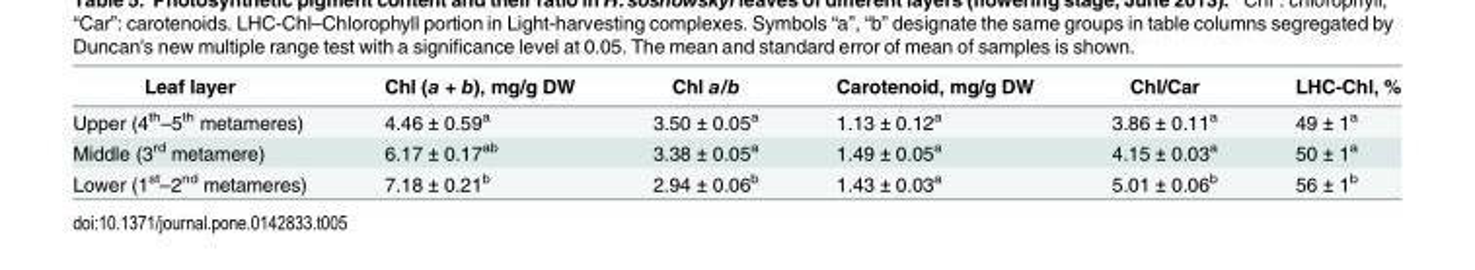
<table><thead><tr><td>Leaf layer</td><td>Chl (a + b), mg/g DW</td><td>Chl a/b</td><td>Carotenoid, mg/g DW</td><td>Chl/Car</td><td>LHC-Chl, %</td></tr></thead><tbody><tr><td>Upper (4<sup>th</sup>–5<sup>th</sup> metameres)</td><td>4.46 ± 0.59<sup>a</sup></td><td>3.50 ± 0.05<sup>a</sup></td><td>1.13 ± 0.12<sup>a</sup></td><td>3.86 ± 0.11<sup>a</sup></td><td>49 ± 1<sup>a</sup></td></tr><tr><td>Middle (3<sup>rd</sup> metamere)</td><td>6.17 ± 0.17<sup>ab</sup></td><td>3.38 ± 0.05<sup>a</sup></td><td>1.49 ± 0.05<sup>a</sup></td><td>4.15 ± 0.03<sup>a</sup></td><td>50 ± 1<sup>a</sup></td></tr><tr><td>Lower (1<sup>st</sup>–2<sup>nd</sup> metameres)</td><td>7.18 ± 0.21<sup>b</sup></td><td>2.94 ± 0.06<sup>b</sup></td><td>1.43 ± 0.03<sup>a</sup></td><td>5.01 ± 0.06<sup>b</sup></td><td>56 ± 1<sup>b</sup></td></tr></tbody></table>